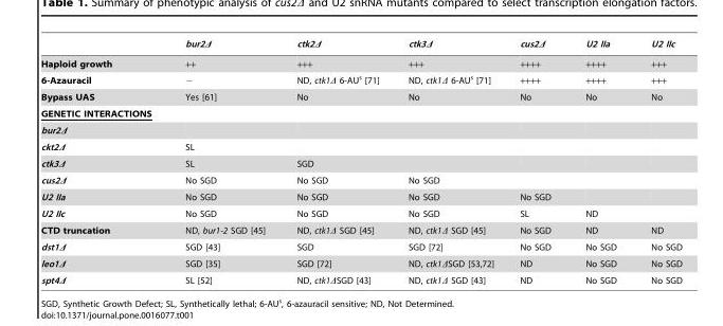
<table><thead><tr><td></td><td>bur2Δ</td><td>ctk2Δ</td><td>ctk3Δ</td><td>cus2Δ</td><td>U2 IIa</td><td>U2 IIc</td></tr></thead><tbody><tr><td>Haploid growth</td><td>++</td><td>+++</td><td>+++</td><td>++++</td><td>++++</td><td>+++</td></tr><tr><td>6-Azauracil</td><td>−</td><td>ND, ctk1Δ 6-AU<sup>s</sup> [71]</td><td>ND, ctk1Δ 6-AU<sup>s</sup> [71]</td><td>++++</td><td>++++</td><td>+++</td></tr><tr><td>Bypass UAS</td><td>Yes [61]</td><td>No</td><td>No</td><td>No</td><td>No</td><td>No</td></tr><tr><td colspan="7">GENETIC INTERACTIONS</td></tr><tr><td colspan="7">bur2Δ</td></tr><tr><td>ckt2Δ</td><td>SL</td><td></td><td></td><td></td><td></td><td></td></tr><tr><td>ctk3Δ</td><td>SL</td><td>SGD</td><td></td><td></td><td></td><td></td></tr><tr><td>cus2Δ</td><td>No SGD</td><td>No SGD</td><td>No SGD</td><td></td><td></td><td></td></tr><tr><td>U2 IIa</td><td>No SGD</td><td>No SGD</td><td>No SGD</td><td>No SGD</td><td></td><td></td></tr><tr><td>U2 IIc</td><td>No SGD</td><td>No SGD</td><td>No SGD</td><td>SL</td><td>ND</td><td></td></tr><tr><td>CTD truncation</td><td>ND, bur1-2 SGD [45]</td><td>ND, ctk1Δ SGD [45]</td><td>ND, ctk1Δ SGD [45]</td><td>No SGD</td><td>ND</td><td>ND</td></tr><tr><td>dst1Δ</td><td>SGD [43]</td><td>SGD</td><td>SGD [72]</td><td>No SGD</td><td>No SGD</td><td>No SGD</td></tr><tr><td>leo1Δ</td><td>SGD [35]</td><td>SGD [72]</td><td>ND, ctk1DSGD [53,72]</td><td>ND</td><td>No SGD</td><td>No SGD</td></tr><tr><td>spt4Δ</td><td>SL [52]</td><td>ND, ctk1ΔSGD [43]</td><td>ND, ctk1Δ SGD [43]</td><td>ND</td><td>No SGD</td><td>No SGD</td></tr></tbody></table>